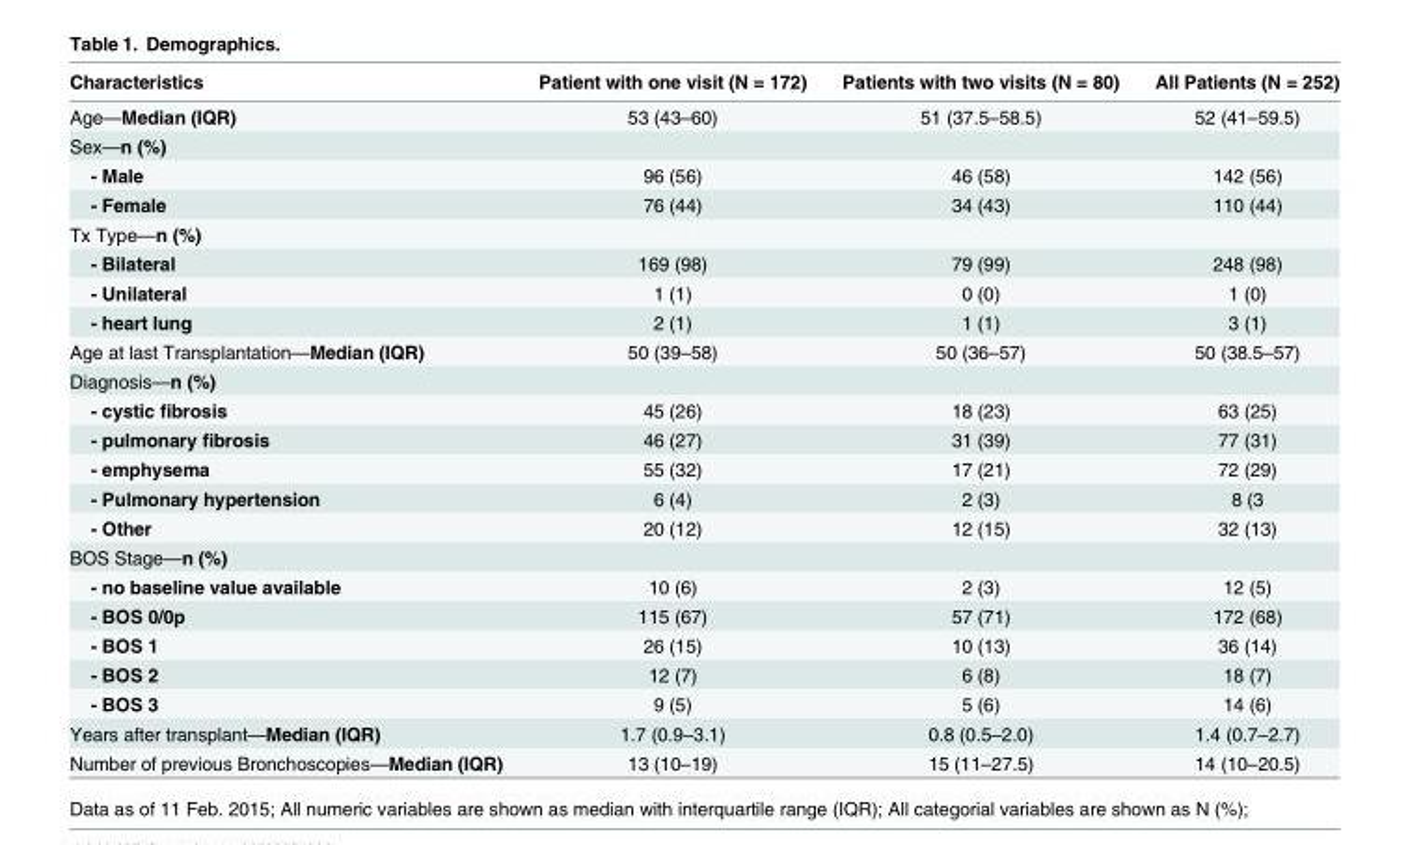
<table><thead><tr><td>Characteristics</td><td>Patient with one visit (N = 172)</td><td>Patients with two visits (N = 80)</td><td>All Patients (N = 252)</td></tr></thead><tbody><tr><td>Age—Median (IQR)</td><td>53 (43–60)</td><td>51 (37.5–58.5)</td><td>52 (41–59.5)</td></tr><tr><td colspan="4">Sex—n (%)</td></tr><tr><td>- Male</td><td>96 (56)</td><td>46 (58)</td><td>142 (56)</td></tr><tr><td>- Female</td><td>76 (44)</td><td>34 (43)</td><td>110 (44)</td></tr><tr><td colspan="4">Tx Type—n (%)</td></tr><tr><td>- Bilateral</td><td>169 (98)</td><td>79 (99)</td><td>248 (98)</td></tr><tr><td>- Unilateral</td><td>1 (1)</td><td>0 (0)</td><td>1 (0)</td></tr><tr><td>- heart lung</td><td>2 (1)</td><td>1 (1)</td><td>3 (1)</td></tr><tr><td>Age at last Transplantation—Median (IQR)</td><td>50 (39–58)</td><td>50 (36–57)</td><td>50 (38.5–57)</td></tr><tr><td colspan="4">Diagnosis—n (%)</td></tr><tr><td>- cystic fibrosis</td><td>45 (26)</td><td>18 (23)</td><td>63 (25)</td></tr><tr><td>- pulmonary fibrosis</td><td>46 (27)</td><td>31 (39)</td><td>77 (31)</td></tr><tr><td>- emphysema</td><td>55 (32)</td><td>17 (21)</td><td>72 (29)</td></tr><tr><td>- Pulmonary hypertension</td><td>6 (4)</td><td>2 (3)</td><td>8 (3</td></tr><tr><td>- Other</td><td>20 (12)</td><td>12 (15)</td><td>32 (13)</td></tr><tr><td colspan="4">BOS Stage—n (%)</td></tr><tr><td>- no baseline value available</td><td>10 (6)</td><td>2 (3)</td><td>12 (5)</td></tr><tr><td>- BOS 0/0p</td><td>115 (67)</td><td>57 (71)</td><td>172 (68)</td></tr><tr><td>- BOS 1</td><td>26 (15)</td><td>10 (13)</td><td>36 (14)</td></tr><tr><td>- BOS 2</td><td>12 (7)</td><td>6 (8)</td><td>18 (7)</td></tr><tr><td>- BOS 3</td><td>9 (5)</td><td>5 (6)</td><td>14 (6)</td></tr><tr><td>Years after transplant—Median (IQR)</td><td>1.7 (0.9–3.1)</td><td>0.8 (0.5–2.0)</td><td>1.4 (0.7–2.7)</td></tr><tr><td>Number of previous Bronchoscopies—Median (IQR)</td><td>13 (10–19)</td><td>15 (11–27.5)</td><td>14 (10–20.5)</td></tr></tbody></table>